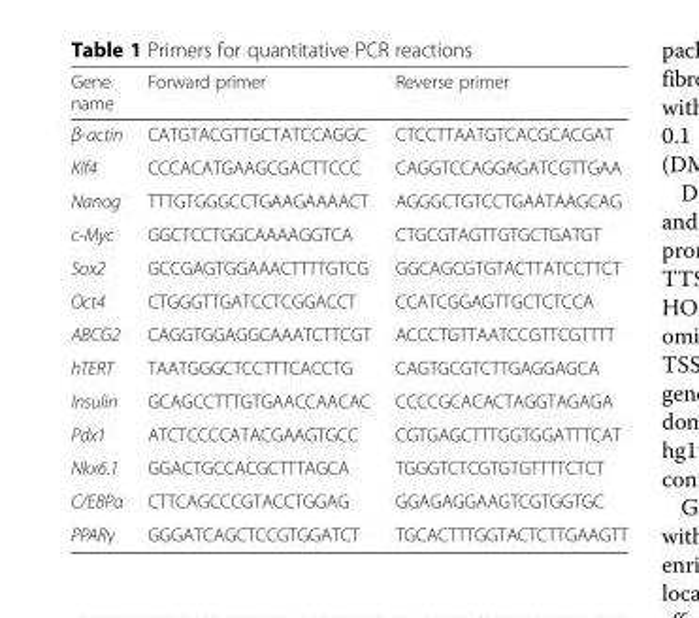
<table><thead><tr><td>Gene name</td><td>Forward primer</td><td>Reverse primer</td></tr></thead><tbody><tr><td>β-actin</td><td>CATGTACGTTGCTATCCAGGC</td><td>CTCCTTAATGTCACGCACGAT</td></tr><tr><td>Klf4</td><td>CCCACATGAAGCGACTTCCC</td><td>CAGGTCCAGGAGATCGTTGAA</td></tr><tr><td>Nanog</td><td>TTTGTGGGCCTGAAGAAAACT</td><td>AGGGCTGTCCTGAATAAGCAG</td></tr><tr><td>c-Myc</td><td>GGCTCCTGGCAAAAGGTCA</td><td>CTGCGTAGTTGTGCTGATGT</td></tr><tr><td>Sox2</td><td>GCCGAGTGGAAACTTTTGTCG</td><td>GGCAGCGTGTACTTATCCTTCT</td></tr><tr><td>Oct4</td><td>CTGGGTTGATCCTCGGACCT</td><td>CCATCGGAGTTGCTCTCCA</td></tr><tr><td>ABCG2</td><td>CAGGTGGAGGCAAATCTTCGT</td><td>ACCCTGTTAATCCGTTCGTTTT</td></tr><tr><td>hTERT</td><td>TAATGGGCTCCTTTCACCTG</td><td>CAGTGCGTCTTGAGGAGCA</td></tr><tr><td>Insulin</td><td>GCAGCCTTTGTGAACCAACAC</td><td>CCCCGCACACTAGGTAGAGA</td></tr><tr><td>Pdx1</td><td>ATCTCCCCATACGAAGTGCC</td><td>CGTGAGCTTTGGTGGATTTCAT</td></tr><tr><td>Nkx6.1</td><td>GGACTGCCACGCTTTAGCA</td><td>TGGGTCTCGTGTGTTTTCTCT</td></tr><tr><td>C/EBPα</td><td>CTTCAGCCCGTACCTGGAG</td><td>GGAGAGGAAGTCGTGGTGC</td></tr><tr><td>PPARγ</td><td>GGGATCAGCTCCGTGGATCT</td><td>TGCACTTTGGTACTCTTGAAGTT</td></tr></tbody></table>